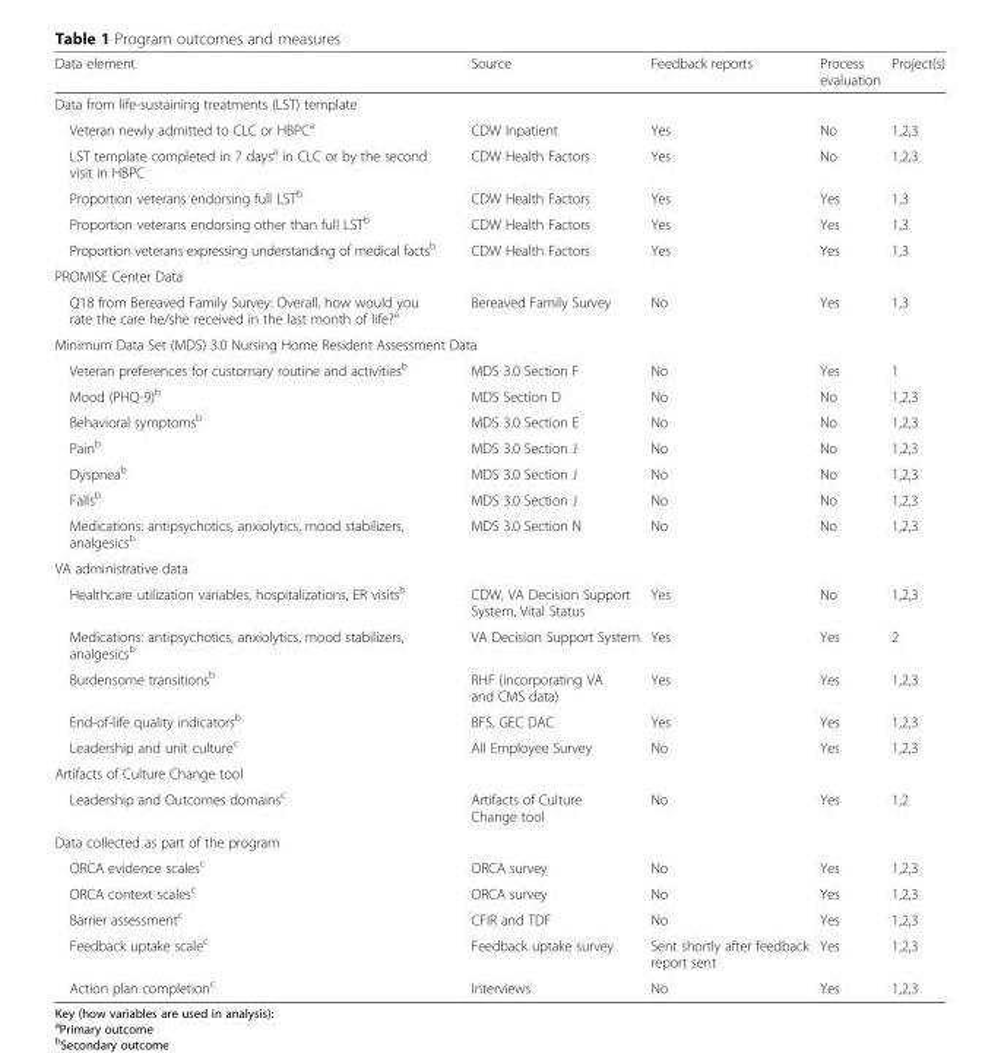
<table><thead><tr><td>Data element</td><td>Source</td><td>Feedback reports</td><td>Process evaluation</td><td>Project(s)</td></tr></thead><tbody><tr><td colspan="5">Data from life-sustaining treatments (LST) template</td></tr><tr><td>Veteran newly admitted to CLC or HBPC<sup>a</sup></td><td>CDW Inpatient</td><td>Yes</td><td>No</td><td>1,2,3</td></tr><tr><td>LST template completed in 7 days<sup>a</sup> in CLC or by the second visit in HBPC</td><td>CDW Health Factors</td><td>Yes</td><td>No</td><td>1,2,3</td></tr><tr><td>Proportion veterans endorsing full LST<sup>b</sup></td><td>CDW Health Factors</td><td>Yes</td><td>Yes</td><td>1,3</td></tr><tr><td>Proportion veterans endorsing other than full LST<sup>b</sup></td><td>CDW Health Factors</td><td>Yes</td><td>Yes</td><td>1,3</td></tr><tr><td>Proportion veterans expressing understanding of medical facts<sup>b</sup></td><td>CDW Health Factors</td><td>Yes</td><td>Yes</td><td>1,3</td></tr><tr><td colspan="5">PROMISE Center Data</td></tr><tr><td>Q18 from Bereaved Family Survey: Overall, how would you rate the care he/she received in the last month of life?<sup>a</sup></td><td>Bereaved Family Survey</td><td>No</td><td>Yes</td><td>1,3</td></tr><tr><td colspan="5">Minimum Data Set (MDS) 3.0 Nursing Home Resident Assessment Data</td></tr><tr><td>Veteran preferences for customary routine and activities<sup>b</sup></td><td>MDS 3.0 Section F</td><td>No</td><td>Yes</td><td>1</td></tr><tr><td>Mood (PHQ-9)<sup>b</sup></td><td>MDS Section D</td><td>No</td><td>No</td><td>1,2,3</td></tr><tr><td>Behavioral symptoms<sup>b</sup></td><td>MDS 3.0 Section E</td><td>No</td><td>No</td><td>1,2,3</td></tr><tr><td>Pain<sup>b</sup></td><td>MDS 3.0 Section J</td><td>No</td><td>No</td><td>1,2,3</td></tr><tr><td>Dyspnea<sup>b</sup></td><td>MDS 3.0 Section J</td><td>No</td><td>No</td><td>1,2,3</td></tr><tr><td>Falls<sup>b</sup></td><td>MDS 3.0 Section J</td><td>No</td><td>No</td><td>1,2,3</td></tr><tr><td>Medications: antipsychotics, anxiolytics, mood stabilizers, analgesics<sup>b</sup></td><td>MDS 3.0 Section N</td><td>No</td><td>No</td><td>1,2,3</td></tr><tr><td colspan="5">VA administrative data</td></tr><tr><td>Healthcare utilization variables, hospitalizations, ER visits<sup>b</sup></td><td>CDW, VA Decision Support System, Vital Status</td><td>Yes</td><td>No</td><td>1,2,3</td></tr><tr><td>Medications: antipsychotics, anxiolytics, mood stabilizers, analgesics<sup>b</sup></td><td>VA Decision Support System</td><td>Yes</td><td>Yes</td><td>2</td></tr><tr><td>Burdensome transitions<sup>b</sup></td><td>RHF (incorporating VA and CMS data)</td><td>Yes</td><td>Yes</td><td>1,2,3</td></tr><tr><td>End-of-life quality indicators<sup>b</sup></td><td>BFS, GEC DAC</td><td>Yes</td><td>Yes</td><td>1,2,3</td></tr><tr><td>Leadership and unit culture<sup>c</sup></td><td>All Employee Survey</td><td>No</td><td>Yes</td><td>1,2,3</td></tr><tr><td colspan="5">Artifacts of Culture Change tool</td></tr><tr><td>Leadership and Outcomes domains<sup>c</sup></td><td>Artifacts of Culture Change tool</td><td>No</td><td>Yes</td><td>1,2</td></tr><tr><td colspan="5">Data collected as part of the program</td></tr><tr><td>ORCA evidence scales<sup>c</sup></td><td>ORCA survey</td><td>No</td><td>Yes</td><td>1,2,3</td></tr><tr><td>ORCA context scales<sup>c</sup></td><td>ORCA survey</td><td>No</td><td>Yes</td><td>1,2,3</td></tr><tr><td>Barrier assessment<sup>c</sup></td><td>CFIR and TDF</td><td>No</td><td>Yes</td><td>1,2,3</td></tr><tr><td>Feedback uptake scale<sup>c</sup></td><td>Feedback uptake survey</td><td>Sent shortly after feedback report sent</td><td>Yes</td><td>1,2,3</td></tr><tr><td>Action plan completion<sup>c</sup></td><td>Interviews</td><td>No</td><td>Yes</td><td>1,2,3</td></tr></tbody></table>